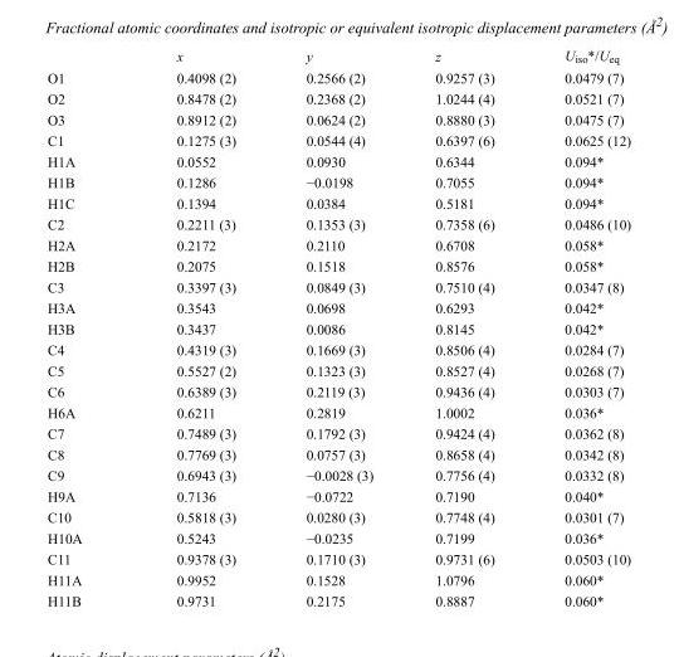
<table><thead><tr><td></td><td>x</td><td>y</td><td>z</td><td>U<sub>iso</sub>*/U<sub>eq</sub></td></tr></thead><tbody><tr><td>O1</td><td>0.4098 (2)</td><td>0.2566 (2)</td><td>0.9257 (3)</td><td>0.0479 (7)</td></tr><tr><td>O2</td><td>0.8478 (2)</td><td>0.2368 (2)</td><td>1.0244 (4)</td><td>0.0521 (7)</td></tr><tr><td>O3</td><td>0.8912 (2)</td><td>0.0624 (2)</td><td>0.8880 (3)</td><td>0.0475 (7)</td></tr><tr><td>C1</td><td>0.1275 (3)</td><td>0.0544 (4)</td><td>0.6397 (6)</td><td>0.0625 (12)</td></tr><tr><td>H1A</td><td>0.0552</td><td>0.0930</td><td>0.6344</td><td>0.094*</td></tr><tr><td>H1B</td><td>0.1286</td><td>−0.0198</td><td>0.7055</td><td>0.094*</td></tr><tr><td>H1C</td><td>0.1394</td><td>0.0384</td><td>0.5181</td><td>0.094*</td></tr><tr><td>C2</td><td>0.2211 (3)</td><td>0.1353 (3)</td><td>0.7358 (6)</td><td>0.0486 (10)</td></tr><tr><td>H2A</td><td>0.2172</td><td>0.2110</td><td>0.6708</td><td>0.058*</td></tr><tr><td>H2B</td><td>0.2075</td><td>0.1518</td><td>0.8576</td><td>0.058*</td></tr><tr><td>C3</td><td>0.3397 (3)</td><td>0.0849 (3)</td><td>0.7510 (4)</td><td>0.0347 (8)</td></tr><tr><td>H3A</td><td>0.3543</td><td>0.0698</td><td>0.6293</td><td>0.042*</td></tr><tr><td>H3B</td><td>0.3437</td><td>0.0086</td><td>0.8145</td><td>0.042*</td></tr><tr><td>C4</td><td>0.4319 (3)</td><td>0.1669 (3)</td><td>0.8506 (4)</td><td>0.0284 (7)</td></tr><tr><td>C5</td><td>0.5527 (2)</td><td>0.1323 (3)</td><td>0.8527 (4)</td><td>0.0268 (7)</td></tr><tr><td>C6</td><td>0.6389 (3)</td><td>0.2119 (3)</td><td>0.9436 (4)</td><td>0.0303 (7)</td></tr><tr><td>H6A</td><td>0.6211</td><td>0.2819</td><td>1.0002</td><td>0.036*</td></tr><tr><td>C7</td><td>0.7489 (3)</td><td>0.1792 (3)</td><td>0.9424 (4)</td><td>0.0362 (8)</td></tr><tr><td>C8</td><td>0.7769 (3)</td><td>0.0757 (3)</td><td>0.8658 (4)</td><td>0.0342 (8)</td></tr><tr><td>C9</td><td>0.6943 (3)</td><td>−0.0028 (3)</td><td>0.7756 (4)</td><td>0.0332 (8)</td></tr><tr><td>H9A</td><td>0.7136</td><td>−0.0722</td><td>0.7190</td><td>0.040*</td></tr><tr><td>C10</td><td>0.5818 (3)</td><td>0.0280 (3)</td><td>0.7748 (4)</td><td>0.0301 (7)</td></tr><tr><td>H10A</td><td>0.5243</td><td>−0.0235</td><td>0.7199</td><td>0.036*</td></tr><tr><td>C11</td><td>0.9378 (3)</td><td>0.1710 (3)</td><td>0.9731 (6)</td><td>0.0503 (10)</td></tr><tr><td>H11A</td><td>0.9952</td><td>0.1528</td><td>1.0796</td><td>0.060*</td></tr><tr><td>H11B</td><td>0.9731</td><td>0.2175</td><td>0.8887</td><td>0.060*</td></tr></tbody></table>